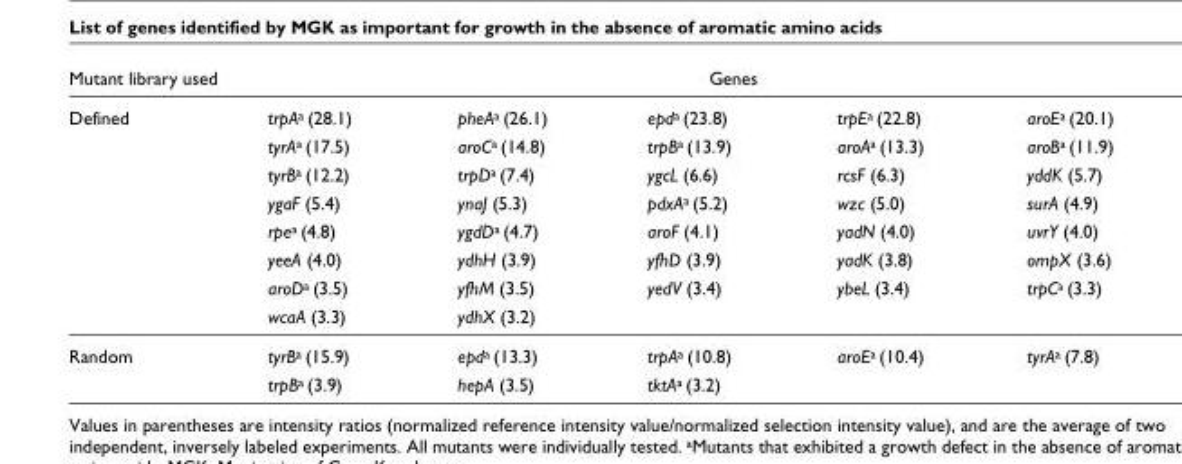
<table><thead><tr><td rowspan="2">Mutant library used Defined</td><td colspan="5">Genes</td></tr><tr><td>trpA<sup>a</sup> (28.1)</td><td>pheA<sup>a</sup> (26.1)</td><td>epd<sup>a</sup> (23.8)</td><td>trpE<sup>a</sup> (22.8)</td><td>aroE<sup>a</sup> (20.1)</td></tr></thead><tbody><tr><td></td><td>tyrA<sup>a</sup> (17.5)</td><td>aroC<sup>a</sup> (14.8)</td><td>trpB<sup>a</sup> (13.9)</td><td>aroA<sup>a</sup> (13.3)</td><td>aroB<sup>a</sup> (11.9)</td></tr><tr><td></td><td>tyrB<sup>a</sup> (12.2)</td><td>trpD<sup>a</sup> (7.4)</td><td>ygcL (6.6)</td><td>rcsF (6.3)</td><td>yddK (5.7)</td></tr><tr><td></td><td>ygaF (5.4)</td><td>ynaJ (5.3)</td><td>pdxA<sup>a</sup> (5.2)</td><td>wzc (5.0)</td><td>surA (4.9)</td></tr><tr><td></td><td>rpe<sup>a</sup> (4.8)</td><td>ygdD<sup>a</sup> (4.7)</td><td>aroF (4.1)</td><td>yadN (4.0)</td><td>uvrY (4.0)</td></tr><tr><td></td><td>yeeA (4.0)</td><td>ydhH (3.9)</td><td>yfhD (3.9)</td><td>yadK (3.8)</td><td>ompX (3.6)</td></tr><tr><td></td><td>aroD<sup>a</sup> (3.5)</td><td>yfhM (3.5)</td><td>yedV (3.4)</td><td>ybeL (3.4)</td><td>trpC<sup>a</sup> (3.3)</td></tr><tr><td></td><td>wcaA (3.3)</td><td>ydhX (3.2)</td><td></td><td></td><td></td></tr><tr><td rowspan="2">Random</td><td>tyrB<sup>a</sup> (15.9)</td><td>epd<sup>a</sup> (13.3)</td><td>trpA<sup>a</sup> (10.8)</td><td>aroE<sup>a</sup> (10.4)</td><td>tyrA<sup>a</sup> (7.8)</td></tr><tr><td>trpB<sup>a</sup> (3.9)</td><td>hepA (3.5)</td><td>tktA<sup>a</sup> (3.2)</td><td></td><td></td></tr></tbody></table>